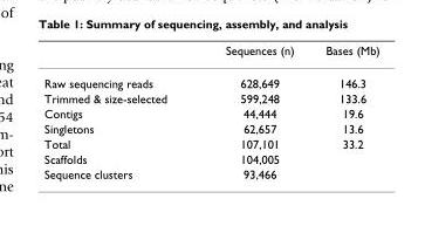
<table><thead><tr><td></td><td>Sequences (n)</td><td>Bases (Mb)</td></tr></thead><tbody><tr><td>Raw sequencing reads</td><td>628,649</td><td>146.3</td></tr><tr><td>Trimmed &amp; size-selected</td><td>599,248</td><td>133.6</td></tr><tr><td>Contigs</td><td>44,444</td><td>19.6</td></tr><tr><td>Singletons</td><td>62,657</td><td>13.6</td></tr><tr><td>Total</td><td>107,101</td><td>33.2</td></tr><tr><td>Scaffolds</td><td>104,005</td><td></td></tr><tr><td>Sequence clusters</td><td>93,466</td><td></td></tr></tbody></table>